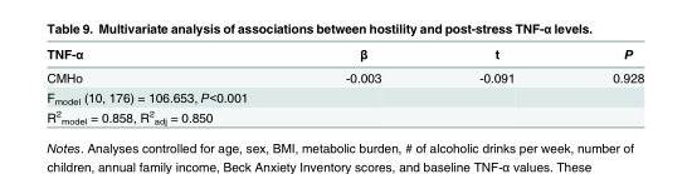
<table><thead><tr><td>TNF-α</td><td>β</td><td>t</td><td>P</td></tr></thead><tbody><tr><td>CMHo</td><td>-0.003</td><td>-0.091</td><td>0.928</td></tr><tr><td colspan="4">F<sub>model</sub> (10, 176) = 106.653, P&lt;0.001</td></tr><tr><td>R<sup>2</sup> <sub>model</sub> = 0.858, R<sup>2</sup> <sub>adj</sub> = 0.850</td><td></td><td></td><td></td></tr></tbody></table>